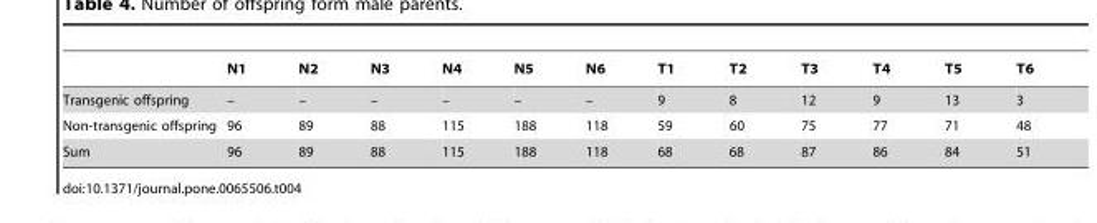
<table><thead><tr><td></td><td>N1</td><td>N2</td><td>N3</td><td>N4</td><td>N5</td><td>N6</td><td>T1</td><td>T2</td><td>T3</td><td>T4</td><td>T5</td><td>T6</td></tr></thead><tbody><tr><td>Transgenic offspring</td><td>–</td><td>–</td><td>–</td><td>–</td><td>–</td><td>–</td><td>9</td><td>8</td><td>12</td><td>9</td><td>13</td><td>3</td></tr><tr><td>Non-transgenic offspring</td><td>96</td><td>89</td><td>88</td><td>115</td><td>188</td><td>118</td><td>59</td><td>60</td><td>75</td><td>77</td><td>71</td><td>48</td></tr><tr><td>Sum</td><td>96</td><td>89</td><td>88</td><td>115</td><td>188</td><td>118</td><td>68</td><td>68</td><td>87</td><td>86</td><td>84</td><td>51</td></tr></tbody></table>